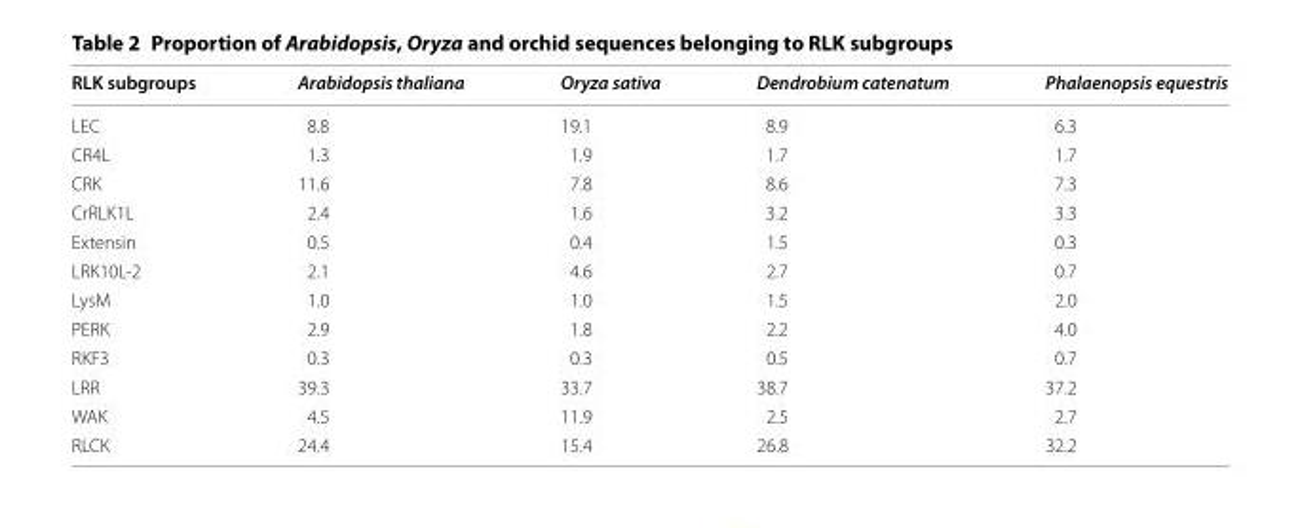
<table><thead><tr><td>RLK subgroups</td><td>Arabidopsis thaliana</td><td>Oryza sativa</td><td>Dendrobium catenatum</td><td>Phalaenopsis equestris</td></tr></thead><tbody><tr><td>LEC</td><td>8.8</td><td>19.1</td><td>8.9</td><td>6.3</td></tr><tr><td>CR4L</td><td>1.3</td><td>1.9</td><td>1.7</td><td>1.7</td></tr><tr><td>CRK</td><td>11.6</td><td>7.8</td><td>8.6</td><td>7.3</td></tr><tr><td>CrRLK1L</td><td>2.4</td><td>1.6</td><td>3.2</td><td>3.3</td></tr><tr><td>Extensin</td><td>0.5</td><td>0.4</td><td>1.5</td><td>0.3</td></tr><tr><td>LRK10L‑2</td><td>2.1</td><td>4.6</td><td>2.7</td><td>0.7</td></tr><tr><td>LysM</td><td>1.0</td><td>1.0</td><td>1.5</td><td>2.0</td></tr><tr><td>PERK</td><td>2.9</td><td>1.8</td><td>2.2</td><td>4.0</td></tr><tr><td>RKF3</td><td>0.3</td><td>0.3</td><td>0.5</td><td>0.7</td></tr><tr><td>LRR</td><td>39.3</td><td>33.7</td><td>38.7</td><td>37.2</td></tr><tr><td>WAK</td><td>4.5</td><td>11.9</td><td>2.5</td><td>2.7</td></tr><tr><td>RLCK</td><td>24.4</td><td>15.4</td><td>26.8</td><td>32.2</td></tr></tbody></table>